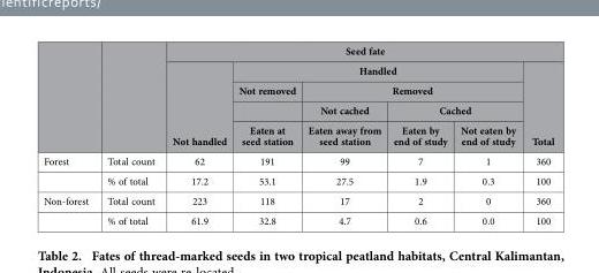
<table><thead><tr><td rowspan="5"></td><td rowspan="5"></td><td colspan="6">Seed fate</td></tr><tr><td rowspan="4">Not handled</td><td colspan="4">Handled</td><td rowspan="4">Total</td></tr><tr><td rowspan="3">Not removed Eaten at seed station</td><td colspan="3">Removed</td></tr><tr><td rowspan="2">Not cached Eaten away from seed station</td><td colspan="2">Cached</td></tr><tr><td>Eaten by end of study</td><td>Not eaten by end of study</td></tr></thead><tbody><tr><td rowspan="2">Forest</td><td>Total count</td><td>62</td><td>191</td><td>99</td><td>7</td><td>1</td><td>360</td></tr><tr><td>% of total</td><td>17.2</td><td>53.1</td><td>27.5</td><td>1.9</td><td>0.3</td><td>100</td></tr><tr><td rowspan="2">Non-forest</td><td>Total count</td><td>223</td><td>118</td><td>17</td><td>2</td><td>0</td><td>360</td></tr><tr><td>% of total</td><td>61.9</td><td>32.8</td><td>4.7</td><td>0.6</td><td>0.0</td><td>100</td></tr></tbody></table>